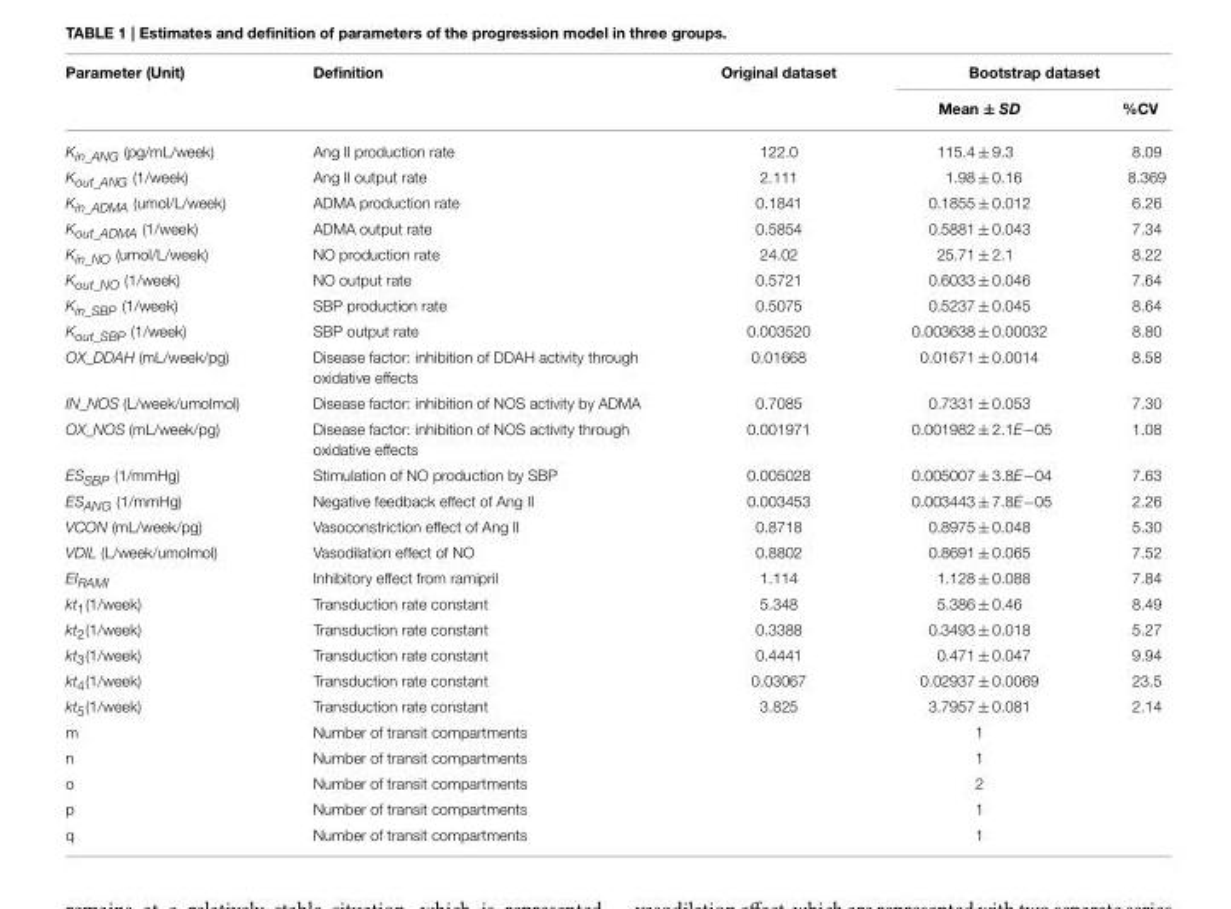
<table><thead><tr><td rowspan="2">Parameter (Unit)</td><td rowspan="2">Definition</td><td rowspan="2">Original dataset</td><td colspan="2">Bootstrap dataset</td></tr><tr><td>Mean ± SD</td><td>%CV</td></tr></thead><tbody><tr><td>Kin_ANG (pg/mL/week)</td><td>Ang II production rate</td><td>122.0</td><td>115.4 ± 9.3</td><td>8.09</td></tr><tr><td>Kout_ANG (1/week)</td><td>Ang II output rate</td><td>2.111</td><td>1.98 ± 0.16</td><td>8.369</td></tr><tr><td>Kin_ADMA (umol/L/week)</td><td>ADMA production rate</td><td>0.1841</td><td>0.1855 ± 0.012</td><td>6.26</td></tr><tr><td>Kout_ADMA (1/week)</td><td>ADMA output rate</td><td>0.5854</td><td>0.5881 ± 0.043</td><td>7.34</td></tr><tr><td>Kin_NO (umol/L/week)</td><td>NO production rate</td><td>24.02</td><td>25.71 ± 2.1</td><td>8.22</td></tr><tr><td>Kout_NO (1/week)</td><td>NO output rate</td><td>0.5721</td><td>0.6033 ± 0.046</td><td>7.64</td></tr><tr><td>Kin_SBP (1/week)</td><td>SBP production rate</td><td>0.5075</td><td>0.5237 ± 0.045</td><td>8.64</td></tr><tr><td>Kout_SBP (1/week)</td><td>SBP output rate</td><td>0.003520</td><td>0.003638 ± 0.00032</td><td>8.80</td></tr><tr><td>OX_DDAH (mL/week/pg)</td><td>Disease factor: inhibition of DDAH activity through oxidative effects</td><td>0.01668</td><td>0.01671 ± 0.0014</td><td>8.58</td></tr><tr><td>IN_NOS (L/week/umolmol)</td><td>Disease factor: inhibition of NOS activity by ADMA</td><td>0.7085</td><td>0.7331 ± 0.053</td><td>7.30</td></tr><tr><td>OX_NOS (mL/week/pg)</td><td>Disease factor: inhibition of NOS activity through oxidative effects</td><td>0.001971</td><td>0.001982 ± 2.1E−05</td><td>1.08</td></tr><tr><td>ESSBP (1/mmHg)</td><td>Stimulation of NO production by SBP</td><td>0.005028</td><td>0.005007 ± 3.8E−04</td><td>7.63</td></tr><tr><td>ESANG (1/mmHg)</td><td>Negative feedback effect of Ang II</td><td>0.003453</td><td>0.003443 ± 7.8E−05</td><td>2.26</td></tr><tr><td>VCON (mL/week/pg)</td><td>Vasoconstriction effect of Ang II</td><td>0.8718</td><td>0.8975 ± 0.048</td><td>5.30</td></tr><tr><td>VDIL (L/week/umolmol)</td><td>Vasodilation effect of NO</td><td>0.8802</td><td>0.8691 ± 0.065</td><td>7.52</td></tr><tr><td>EIRAMI</td><td>Inhibitory effect from ramipril</td><td>1.114</td><td>1.128 ± 0.088</td><td>7.84</td></tr><tr><td>kt<sub>1</sub>(1/week)</td><td>Transduction rate constant</td><td>5.348</td><td>5.386 ± 0.46</td><td>8.49</td></tr><tr><td>kt<sub>2</sub>(1/week)</td><td>Transduction rate constant</td><td>0.3388</td><td>0.3493 ± 0.018</td><td>5.27</td></tr><tr><td>kt<sub>3</sub>(1/week)</td><td>Transduction rate constant</td><td>0.4441</td><td>0.471 ± 0.047</td><td>9.94</td></tr><tr><td>kt<sub>4</sub>(1/week)</td><td>Transduction rate constant</td><td>0.03067</td><td>0.02937 ± 0.0069</td><td>23.5</td></tr><tr><td>kt<sub>5</sub>(1/week)</td><td>Transduction rate constant</td><td>3.825</td><td>3.7957 ± 0.081</td><td>2.14</td></tr><tr><td>m</td><td>Number of transit compartments</td><td></td><td>1</td><td></td></tr><tr><td>n</td><td>Number of transit compartments</td><td></td><td>1</td><td></td></tr><tr><td>o</td><td>Number of transit compartments</td><td></td><td>2</td><td></td></tr><tr><td>p</td><td>Number of transit compartments</td><td></td><td>1</td><td></td></tr><tr><td>q</td><td>Number of transit compartments</td><td></td><td>1</td><td></td></tr></tbody></table>